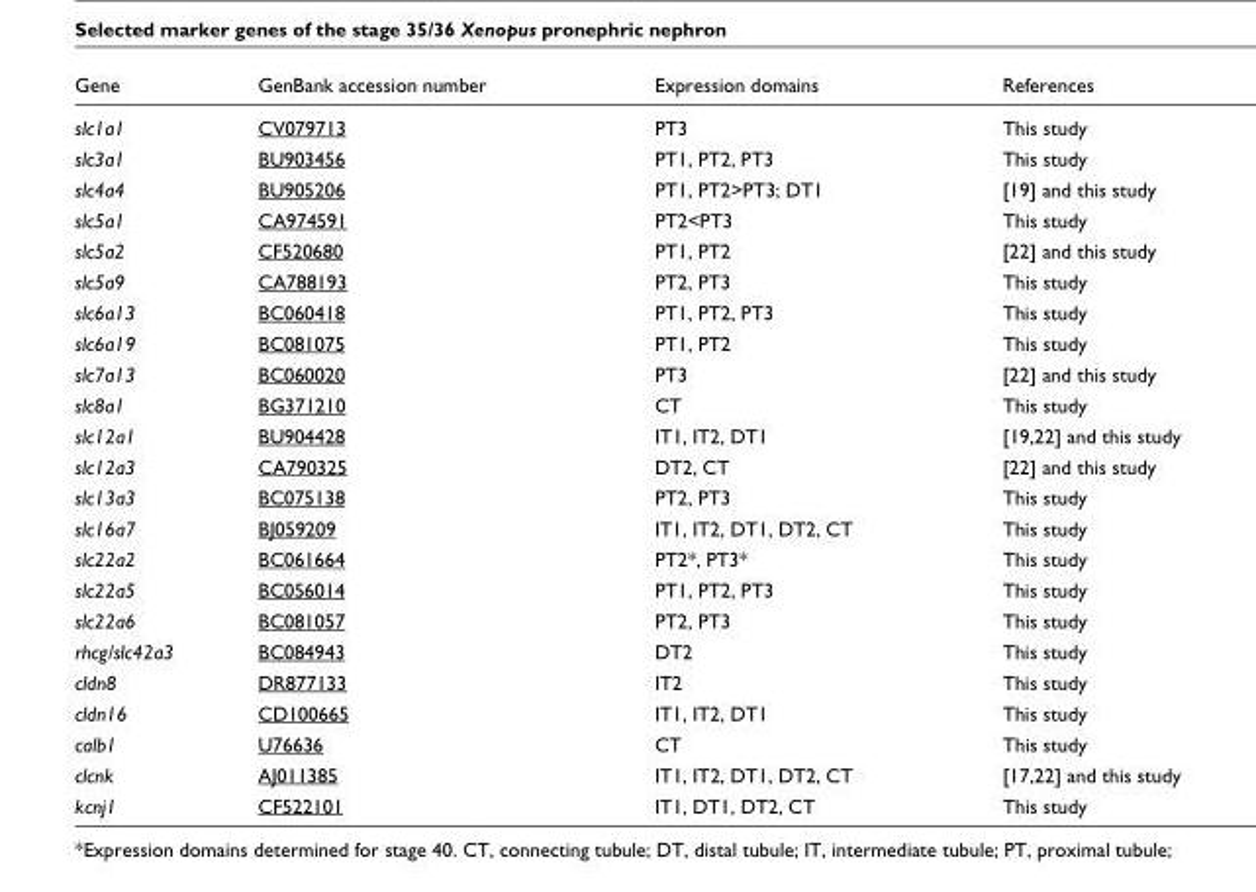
<table><thead><tr><td>Gene</td><td>GenBank accession number</td><td>Expression domains</td><td>References</td></tr></thead><tbody><tr><td>slc1a1</td><td>CV079713</td><td>PT3</td><td>This study</td></tr><tr><td>slc3a1</td><td>BU903456</td><td>PT1, PT2, PT3</td><td>This study</td></tr><tr><td>slc4a4</td><td>BU905206</td><td>PT1, PT2&gt;PT3; DT1</td><td>[19] and this study</td></tr><tr><td>slc5a1</td><td>CA974591</td><td>PT2&lt;PT3</td><td>This study</td></tr><tr><td>slc5a2</td><td>CF520680</td><td>PT1, PT2</td><td>[22] and this study</td></tr><tr><td>slc5a9</td><td>CA788193</td><td>PT2, PT3</td><td>This study</td></tr><tr><td>slc6a13</td><td>BC060418</td><td>PT1, PT2, PT3</td><td>This study</td></tr><tr><td>slc6a19</td><td>BC081075</td><td>PT1, PT2</td><td>This study</td></tr><tr><td>slc7a13</td><td>BC060020</td><td>PT3</td><td>[22] and this study</td></tr><tr><td>slc8a1</td><td>BG371210</td><td>CT</td><td>This study</td></tr><tr><td>slc12a1</td><td>BU904428</td><td>IT1, IT2, DT1</td><td>[19,22] and this study</td></tr><tr><td>slc12a3</td><td>CA790325</td><td>DT2, CT</td><td>[22] and this study</td></tr><tr><td>slc13a3</td><td>BC075138</td><td>PT2, PT3</td><td>This study</td></tr><tr><td>slc16a7</td><td>BJ059209</td><td>IT1, IT2, DT1, DT2, CT</td><td>This study</td></tr><tr><td>slc22a2</td><td>BC061664</td><td>PT2*, PT3*</td><td>This study</td></tr><tr><td>slc22a5</td><td>BC056014</td><td>PT1, PT2, PT3</td><td>This study</td></tr><tr><td>slc22a6</td><td>BC081057</td><td>PT2, PT3</td><td>This study</td></tr><tr><td>rhcg/slc42a3</td><td>BC084943</td><td>DT2</td><td>This study</td></tr><tr><td>cldn8</td><td>DR877133</td><td>IT2</td><td>This study</td></tr><tr><td>cldn16</td><td>CD100665</td><td>IT1, IT2, DT1</td><td>This study</td></tr><tr><td>calb1</td><td>U76636</td><td>CT</td><td>This study</td></tr><tr><td>clcnk</td><td>AJ011385</td><td>IT1, IT2, DT1, DT2, CT</td><td>[17,22] and this study</td></tr><tr><td>kcnj1</td><td>CF522101</td><td>IT1, DT1, DT2, CT</td><td>This study</td></tr></tbody></table>